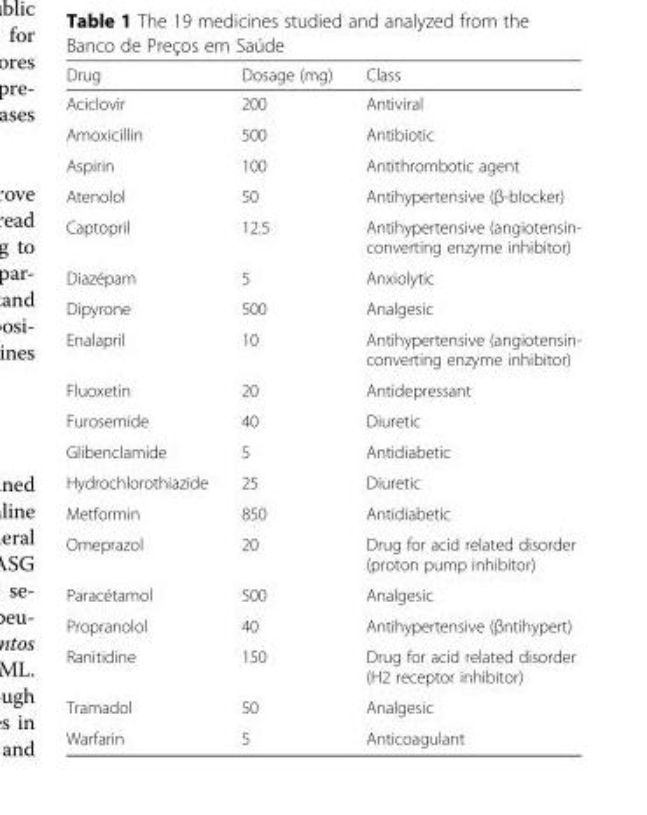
<table><thead><tr><td>Drug</td><td>Dosage (mg)</td><td>Class</td></tr></thead><tbody><tr><td>Aciclovir</td><td>200</td><td>Antiviral</td></tr><tr><td>Amoxicillin</td><td>500</td><td>Antibiotic</td></tr><tr><td>Aspirin</td><td>100</td><td>Antithrombotic agent</td></tr><tr><td>Atenolol</td><td>50</td><td>Antihypertensive (β-blocker)</td></tr><tr><td>Captopril</td><td>12.5</td><td>Antihypertensive (angiotensin- converting enzyme inhibitor)</td></tr><tr><td>Diazépam</td><td>5</td><td>Anxiolytic</td></tr><tr><td>Dipyrone</td><td>500</td><td>Analgesic</td></tr><tr><td>Enalapril</td><td>10</td><td>Antihypertensive (angiotensin- converting enzyme inhibitor)</td></tr><tr><td>Fluoxetin</td><td>20</td><td>Antidepressant</td></tr><tr><td>Furosemide</td><td>40</td><td>Diuretic</td></tr><tr><td>Glibenclamide</td><td>5</td><td>Antidiabetic</td></tr><tr><td>Hydrochlorothiazide</td><td>25</td><td>Diuretic</td></tr><tr><td>Metformin</td><td>850</td><td>Antidiabetic</td></tr><tr><td>Omeprazol</td><td>20</td><td>Drug for acid related disorder (proton pump inhibitor)</td></tr><tr><td>Paracétamol</td><td>500</td><td>Analgesic</td></tr><tr><td>Propranolol</td><td>40</td><td>Antihypertensive (βntihypert)</td></tr><tr><td>Ranitidine</td><td>150</td><td>Drug for acid related disorder (H2 receptor inhibitor)</td></tr><tr><td>Tramadol</td><td>50</td><td>Analgesic</td></tr><tr><td>Warfarin</td><td>5</td><td>Anticoagulant</td></tr></tbody></table>